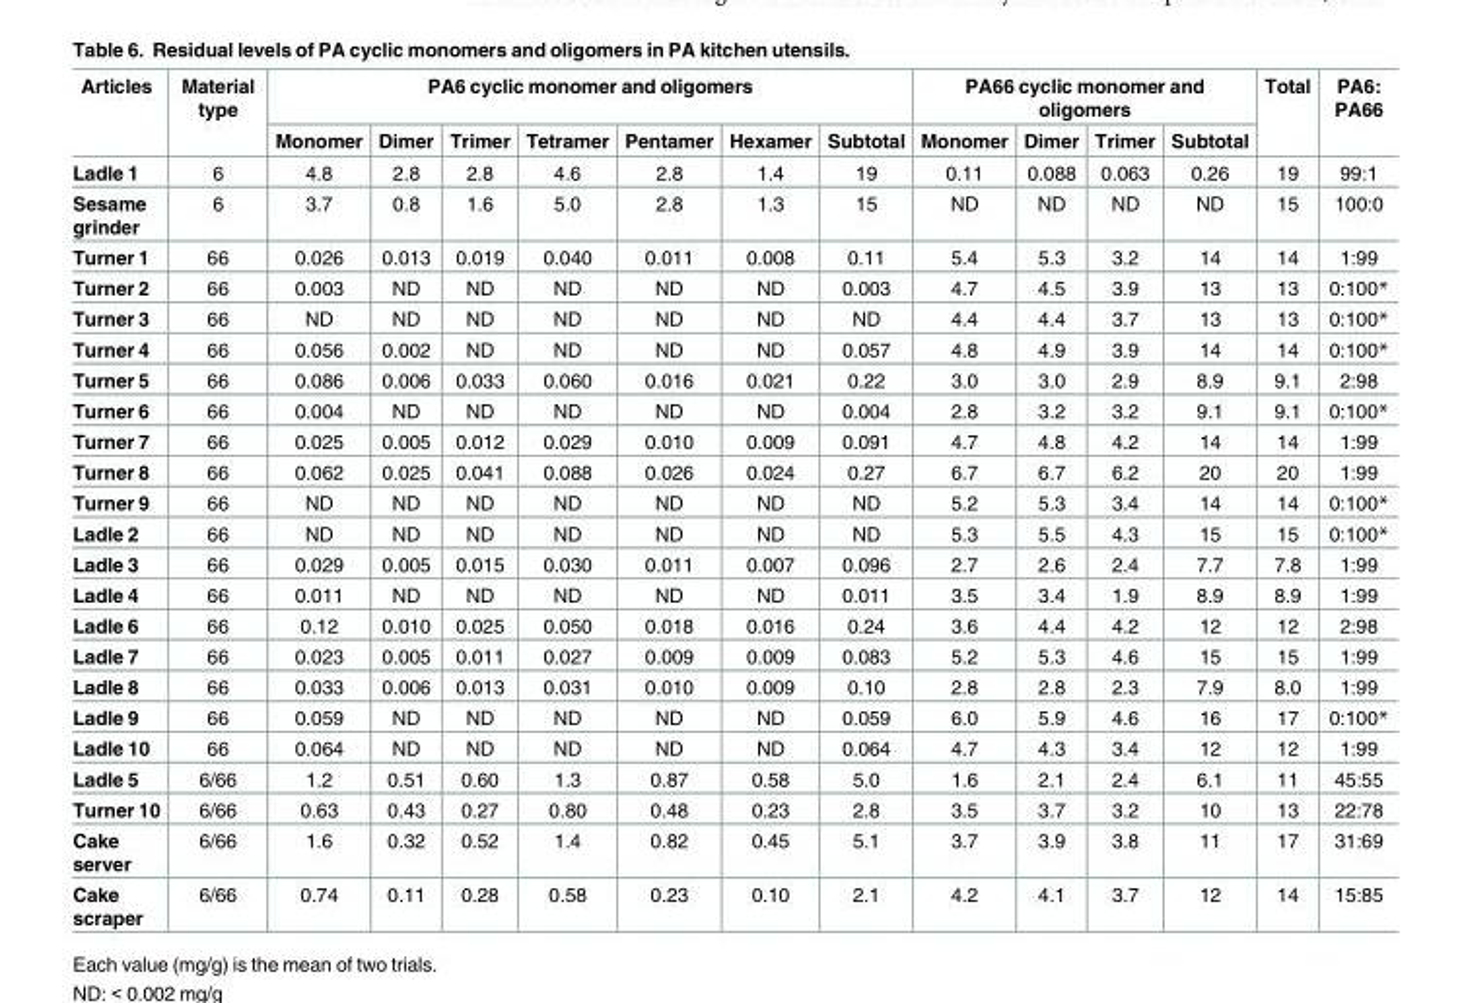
<table><thead><tr><td rowspan="2">Articles</td><td rowspan="2">Material type</td><td colspan="7">PA6 cyclic monomer and oligomers</td><td colspan="4">PA66 cyclic monomer and oligomers</td><td rowspan="2">Total</td><td rowspan="2">PA6: PA66</td></tr><tr><td>Monomer</td><td>Dimer</td><td>Trimer</td><td>Tetramer</td><td>Pentamer</td><td>Hexamer</td><td>Subtotal</td><td>Monomer</td><td>Dimer</td><td>Trimer</td><td>Subtotal</td></tr></thead><tbody><tr><td>Ladle 1</td><td>6</td><td>4.8</td><td>2.8</td><td>2.8</td><td>4.6</td><td>2.8</td><td>1.4</td><td>19</td><td>0.11</td><td>0.088</td><td>0.063</td><td>0.26</td><td>19</td><td>99:1</td></tr><tr><td>Sesame grinder</td><td>6</td><td>3.7</td><td>0.8</td><td>1.6</td><td>5.0</td><td>2.8</td><td>1.3</td><td>15</td><td>ND</td><td>ND</td><td>ND</td><td>ND</td><td>15</td><td>100:0</td></tr><tr><td>Turner 1</td><td>66</td><td>0.026</td><td>0.013</td><td>0.019</td><td>0.040</td><td>0.011</td><td>0.008</td><td>0.11</td><td>5.4</td><td>5.3</td><td>3.2</td><td>14</td><td>14</td><td>1:99</td></tr><tr><td>Turner 2</td><td>66</td><td>0.003</td><td>ND</td><td>ND</td><td>ND</td><td>ND</td><td>ND</td><td>0.003</td><td>4.7</td><td>4.5</td><td>3.9</td><td>13</td><td>13</td><td>0:100*</td></tr><tr><td>Turner 3</td><td>66</td><td>ND</td><td>ND</td><td>ND</td><td>ND</td><td>ND</td><td>ND</td><td>ND</td><td>4.4</td><td>4.4</td><td>3.7</td><td>13</td><td>13</td><td>0:100*</td></tr><tr><td>Turner 4</td><td>66</td><td>0.056</td><td>0.002</td><td>ND</td><td>ND</td><td>ND</td><td>ND</td><td>0.057</td><td>4.8</td><td>4.9</td><td>3.9</td><td>14</td><td>14</td><td>0:100*</td></tr><tr><td>Turner 5</td><td>66</td><td>0.086</td><td>0.006</td><td>0.033</td><td>0.060</td><td>0.016</td><td>0.021</td><td>0.22</td><td>3.0</td><td>3.0</td><td>2.9</td><td>8.9</td><td>9.1</td><td>2:98</td></tr><tr><td>Turner 6</td><td>66</td><td>0.004</td><td>ND</td><td>ND</td><td>ND</td><td>ND</td><td>ND</td><td>0.004</td><td>2.8</td><td>3.2</td><td>3.2</td><td>9.1</td><td>9.1</td><td>0:100*</td></tr><tr><td>Turner 7</td><td>66</td><td>0.025</td><td>0.005</td><td>0.012</td><td>0.029</td><td>0.010</td><td>0.009</td><td>0.091</td><td>4.7</td><td>4.8</td><td>4.2</td><td>14</td><td>14</td><td>1:99</td></tr><tr><td>Turner 8</td><td>66</td><td>0.062</td><td>0.025</td><td>0.041</td><td>0.088</td><td>0.026</td><td>0.024</td><td>0.27</td><td>6.7</td><td>6.7</td><td>6.2</td><td>20</td><td>20</td><td>1:99</td></tr><tr><td>Turner 9</td><td>66</td><td>ND</td><td>ND</td><td>ND</td><td>ND</td><td>ND</td><td>ND</td><td>ND</td><td>5.2</td><td>5.3</td><td>3.4</td><td>14</td><td>14</td><td>0:100*</td></tr><tr><td>Ladle 2</td><td>66</td><td>ND</td><td>ND</td><td>ND</td><td>ND</td><td>ND</td><td>ND</td><td>ND</td><td>5.3</td><td>5.5</td><td>4.3</td><td>15</td><td>15</td><td>0:100*</td></tr><tr><td>Ladle 3</td><td>66</td><td>0.029</td><td>0.005</td><td>0.015</td><td>0.030</td><td>0.011</td><td>0.007</td><td>0.096</td><td>2.7</td><td>2.6</td><td>2.4</td><td>7.7</td><td>7.8</td><td>1:99</td></tr><tr><td>Ladle 4</td><td>66</td><td>0.011</td><td>ND</td><td>ND</td><td>ND</td><td>ND</td><td>ND</td><td>0.011</td><td>3.5</td><td>3.4</td><td>1.9</td><td>8.9</td><td>8.9</td><td>1:99</td></tr><tr><td>Ladle 6</td><td>66</td><td>0.12</td><td>0.010</td><td>0.025</td><td>0.050</td><td>0.018</td><td>0.016</td><td>0.24</td><td>3.6</td><td>4.4</td><td>4.2</td><td>12</td><td>12</td><td>2:98</td></tr><tr><td>Ladle 7</td><td>66</td><td>0.023</td><td>0.005</td><td>0.011</td><td>0.027</td><td>0.009</td><td>0.009</td><td>0.083</td><td>5.2</td><td>5.3</td><td>4.6</td><td>15</td><td>15</td><td>1:99</td></tr><tr><td>Ladle 8</td><td>66</td><td>0.033</td><td>0.006</td><td>0.013</td><td>0.031</td><td>0.010</td><td>0.009</td><td>0.10</td><td>2.8</td><td>2.8</td><td>2.3</td><td>7.9</td><td>8.0</td><td>1:99</td></tr><tr><td>Ladle 9</td><td>66</td><td>0.059</td><td>ND</td><td>ND</td><td>ND</td><td>ND</td><td>ND</td><td>0.059</td><td>6.0</td><td>5.9</td><td>4.6</td><td>16</td><td>17</td><td>0:100*</td></tr><tr><td>Ladle 10</td><td>66</td><td>0.064</td><td>ND</td><td>ND</td><td>ND</td><td>ND</td><td>ND</td><td>0.064</td><td>4.7</td><td>4.3</td><td>3.4</td><td>12</td><td>12</td><td>1:99</td></tr><tr><td>Ladle 5</td><td>6/66</td><td>1.2</td><td>0.51</td><td>0.60</td><td>1.3</td><td>0.87</td><td>0.58</td><td>5.0</td><td>1.6</td><td>2.1</td><td>2.4</td><td>6.1</td><td>11</td><td>45:55</td></tr><tr><td>Turner 10</td><td>6/66</td><td>0.63</td><td>0.43</td><td>0.27</td><td>0.80</td><td>0.48</td><td>0.23</td><td>2.8</td><td>3.5</td><td>3.7</td><td>3.2</td><td>10</td><td>13</td><td>22:78</td></tr><tr><td>Cake server</td><td>6/66</td><td>1.6</td><td>0.32</td><td>0.52</td><td>1.4</td><td>0.82</td><td>0.45</td><td>5.1</td><td>3.7</td><td>3.9</td><td>3.8</td><td>11</td><td>17</td><td>31:69</td></tr><tr><td>Cake scraper</td><td>6/66</td><td>0.74</td><td>0.11</td><td>0.28</td><td>0.58</td><td>0.23</td><td>0.10</td><td>2.1</td><td>4.2</td><td>4.1</td><td>3.7</td><td>12</td><td>14</td><td>15:85</td></tr></tbody></table>